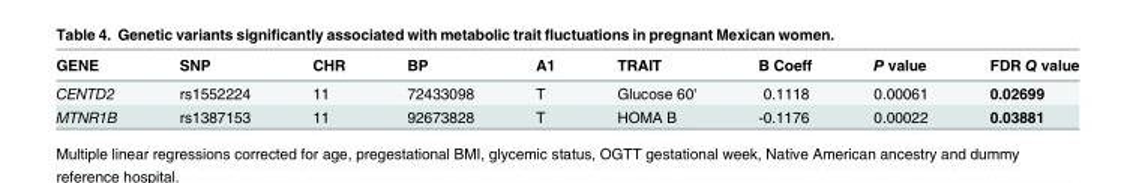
<table><thead><tr><td>GENE</td><td>SNP</td><td>CHR</td><td>BP</td><td>A1</td><td>TRAIT</td><td>B Coeff</td><td>P value</td><td>FDR Q value</td></tr></thead><tbody><tr><td>CENTD2</td><td>rs1552224</td><td>11</td><td>72433098</td><td>T</td><td>Glucose 60&#x27;</td><td>0.1118</td><td>0.00061</td><td>0.02699</td></tr><tr><td>MTNR1B</td><td>rs1387153</td><td>11</td><td>92673828</td><td>T</td><td>HOMA B</td><td>-0.1176</td><td>0.00022</td><td>0.03881</td></tr></tbody></table>